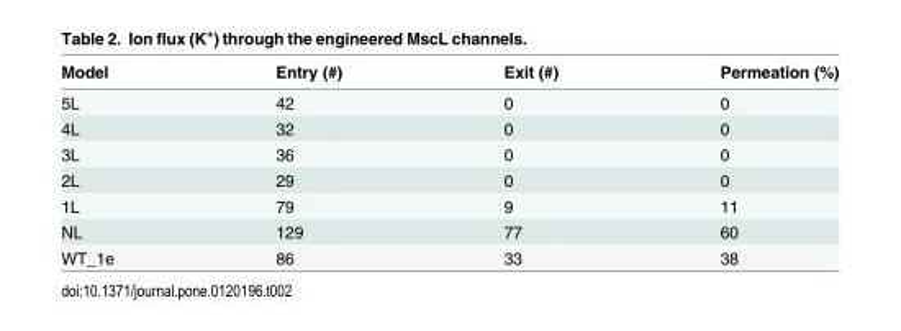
<table><thead><tr><td>Model</td><td>Entry (#)</td><td>Exit (#)</td><td>Permeation (%)</td></tr></thead><tbody><tr><td>5L</td><td>42</td><td>0</td><td>0</td></tr><tr><td>4L</td><td>32</td><td>0</td><td>0</td></tr><tr><td>3L</td><td>36</td><td>0</td><td>0</td></tr><tr><td>2L</td><td>29</td><td>0</td><td>0</td></tr><tr><td>1L</td><td>79</td><td>9</td><td>11</td></tr><tr><td>NL</td><td>129</td><td>77</td><td>60</td></tr><tr><td>WT_1e</td><td>86</td><td>33</td><td>38</td></tr></tbody></table>